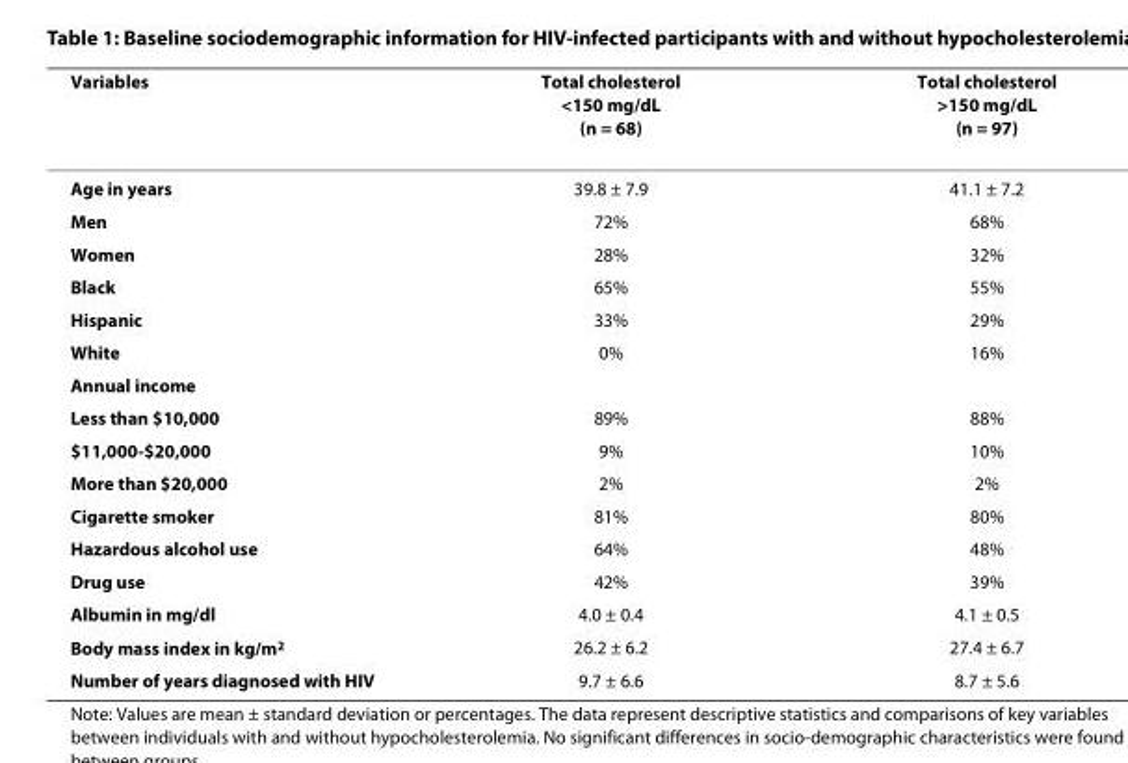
<table><thead><tr><td>Variables</td><td>Total cholesterol &lt;150 mg/dL (n = 68)</td><td>Total cholesterol &gt;150 mg/dL (n = 97)</td></tr></thead><tbody><tr><td>Age in years</td><td>39.8 ± 7.9</td><td>41.1 ± 7.2</td></tr><tr><td>Men</td><td>72%</td><td>68%</td></tr><tr><td>Women</td><td>28%</td><td>32%</td></tr><tr><td>Black</td><td>65%</td><td>55%</td></tr><tr><td>Hispanic</td><td>33%</td><td>29%</td></tr><tr><td>White</td><td>0%</td><td>16%</td></tr><tr><td colspan="3">Annual income</td></tr><tr><td>Less than $10,000</td><td>89%</td><td>88%</td></tr><tr><td>$11,000-$20,000</td><td>9%</td><td>10%</td></tr><tr><td>More than $20,000</td><td>2%</td><td>2%</td></tr><tr><td>Cigarette smoker</td><td>81%</td><td>80%</td></tr><tr><td>Hazardous alcohol use</td><td>64%</td><td>48%</td></tr><tr><td>Drug use</td><td>42%</td><td>39%</td></tr><tr><td>Albumin in mg/dl</td><td>4.0 ± 0.4</td><td>4.1 ± 0.5</td></tr><tr><td>Body mass index in kg/m<sup>2</sup></td><td>26.2 ± 6.2</td><td>27.4 ± 6.7</td></tr><tr><td>Number of years diagnosed with HIV</td><td>9.7 ± 6.6</td><td>8.7 ± 5.6</td></tr></tbody></table>